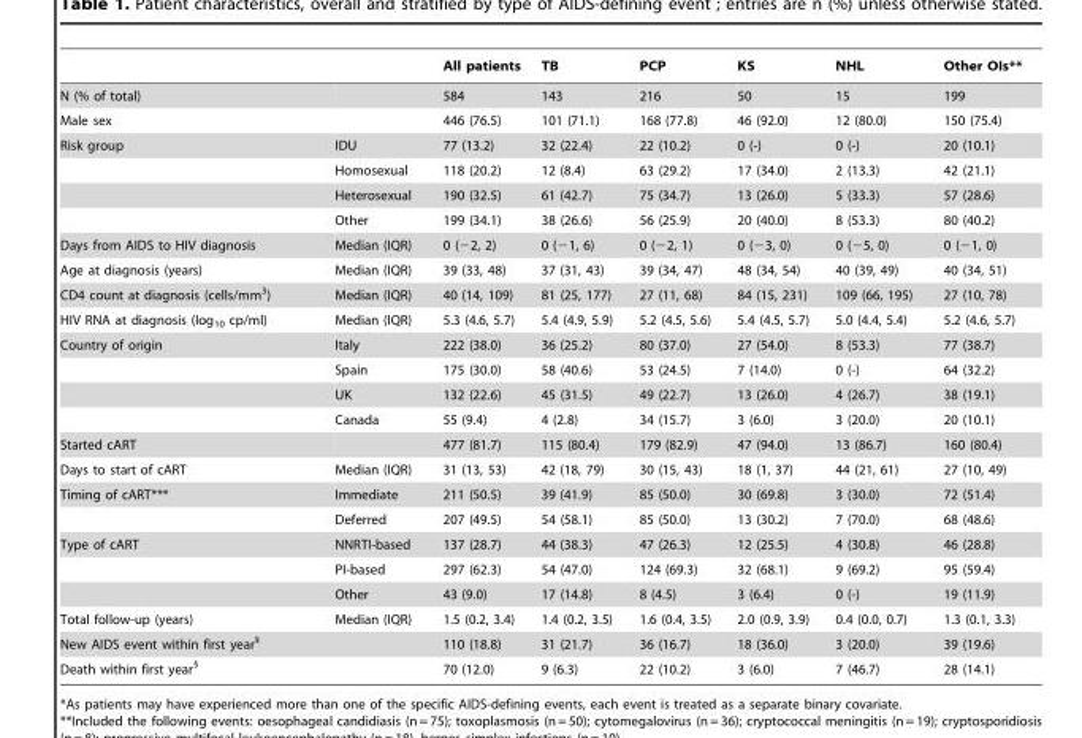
<table><thead><tr><td></td><td></td><td>All patients</td><td>TB</td><td>PCP</td><td>KS</td><td>NHL</td><td>Other OIs**</td></tr></thead><tbody><tr><td>N (% of total)</td><td></td><td>584</td><td>143</td><td>216</td><td>50</td><td>15</td><td>199</td></tr><tr><td>Male sex</td><td></td><td>446 (76.5)</td><td>101 (71.1)</td><td>168 (77.8)</td><td>46 (92.0)</td><td>12 (80.0)</td><td>150 (75.4)</td></tr><tr><td rowspan="4">Risk group</td><td>IDU</td><td>77 (13.2)</td><td>32 (22.4)</td><td>22 (10.2)</td><td>0 (-)</td><td>0 (-)</td><td>20 (10.1)</td></tr><tr><td>Homosexual</td><td>118 (20.2)</td><td>12 (8.4)</td><td>63 (29.2)</td><td>17 (34.0)</td><td>2 (13.3)</td><td>42 (21.1)</td></tr><tr><td>Heterosexual</td><td>190 (32.5)</td><td>61 (42.7)</td><td>75 (34.7)</td><td>13 (26.0)</td><td>5 (33.3)</td><td>57 (28.6)</td></tr><tr><td>Other</td><td>199 (34.1)</td><td>38 (26.6)</td><td>56 (25.9)</td><td>20 (40.0)</td><td>8 (53.3)</td><td>80 (40.2)</td></tr><tr><td>Days from AIDS to HIV diagnosis</td><td>Median (IQR)</td><td>0 (−2, 2)</td><td>0 (−1, 6)</td><td>0 (−2, 1)</td><td>0 (−3, 0)</td><td>0 (−5, 0)</td><td>0 (−1, 0)</td></tr><tr><td>Age at diagnosis (years)</td><td>Median (IQR)</td><td>39 (33, 48)</td><td>37 (31, 43)</td><td>39 (34, 47)</td><td>48 (34, 54)</td><td>40 (39, 49)</td><td>40 (34, 51)</td></tr><tr><td>CD4 count at diagnosis (cells/mm<sup>3</sup>)</td><td>Median (IQR)</td><td>40 (14, 109)</td><td>81 (25, 177)</td><td>27 (11, 68)</td><td>84 (15, 231)</td><td>109 (66, 195)</td><td>27 (10, 78)</td></tr><tr><td>HIV RNA at diagnosis (log<sub>10</sub> cp/ml)</td><td>Median (IQR)</td><td>5.3 (4.6, 5.7)</td><td>5.4 (4.9, 5.9)</td><td>5.2 (4.5, 5.6)</td><td>5.4 (4.5, 5.7)</td><td>5.0 (4.4, 5.4)</td><td>5.2 (4.6, 5.7)</td></tr><tr><td rowspan="4">Country of origin</td><td>Italy</td><td>222 (38.0)</td><td>36 (25.2)</td><td>80 (37.0)</td><td>27 (54.0)</td><td>8 (53.3)</td><td>77 (38.7)</td></tr><tr><td>Spain</td><td>175 (30.0)</td><td>58 (40.6)</td><td>53 (24.5)</td><td>7 (14.0)</td><td>0 (-)</td><td>64 (32.2)</td></tr><tr><td>UK</td><td>132 (22.6)</td><td>45 (31.5)</td><td>49 (22.7)</td><td>13 (26.0)</td><td>4 (26.7)</td><td>38 (19.1)</td></tr><tr><td>Canada</td><td>55 (9.4)</td><td>4 (2.8)</td><td>34 (15.7)</td><td>3 (6.0)</td><td>3 (20.0)</td><td>20 (10.1)</td></tr><tr><td>Started cART</td><td></td><td>477 (81.7)</td><td>115 (80.4)</td><td>179 (82.9)</td><td>47 (94.0)</td><td>13 (86.7)</td><td>160 (80.4)</td></tr><tr><td>Days to start of cART</td><td>Median (IQR)</td><td>31 (13, 53)</td><td>42 (18, 79)</td><td>30 (15, 43)</td><td>18 (1, 37)</td><td>44 (21, 61)</td><td>27 (10, 49)</td></tr><tr><td rowspan="2">Timing of cART***</td><td>Immediate</td><td>211 (50.5)</td><td>39 (41.9)</td><td>85 (50.0)</td><td>30 (69.8)</td><td>3 (30.0)</td><td>72 (51.4)</td></tr><tr><td>Deferred</td><td>207 (49.5)</td><td>54 (58.1)</td><td>85 (50.0)</td><td>13 (30.2)</td><td>7 (70.0)</td><td>68 (48.6)</td></tr><tr><td rowspan="3">Type of cART</td><td>NNRTI-based</td><td>137 (28.7)</td><td>44 (38.3)</td><td>47 (26.3)</td><td>12 (25.5)</td><td>4 (30.8)</td><td>46 (28.8)</td></tr><tr><td>PI-based</td><td>297 (62.3)</td><td>54 (47.0)</td><td>124 (69.3)</td><td>32 (68.1)</td><td>9 (69.2)</td><td>95 (59.4)</td></tr><tr><td>Other</td><td>43 (9.0)</td><td>17 (14.8)</td><td>8 (4.5)</td><td>3 (6.4)</td><td>0 (-)</td><td>19 (11.9)</td></tr><tr><td>Total follow-up (years)</td><td>Median (IQR)</td><td>1.5 (0.2, 3.4)</td><td>1.4 (0.2, 3.5)</td><td>1.6 (0.4, 3.5)</td><td>2.0 (0.9, 3.9)</td><td>0.4 (0.0, 0.7)</td><td>1.3 (0.1, 3.3)</td></tr><tr><td colspan="2">New AIDS event within first year§</td><td>110 (18.8)</td><td>31 (21.7)</td><td>36 (16.7)</td><td>18 (36.0)</td><td>3 (20.0)</td><td>39 (19.6)</td></tr><tr><td colspan="2">Death within first year§</td><td>70 (12.0)</td><td>9 (6.3)</td><td>22 (10.2)</td><td>3 (6.0)</td><td>7 (46.7)</td><td>28 (14.1)</td></tr></tbody></table>